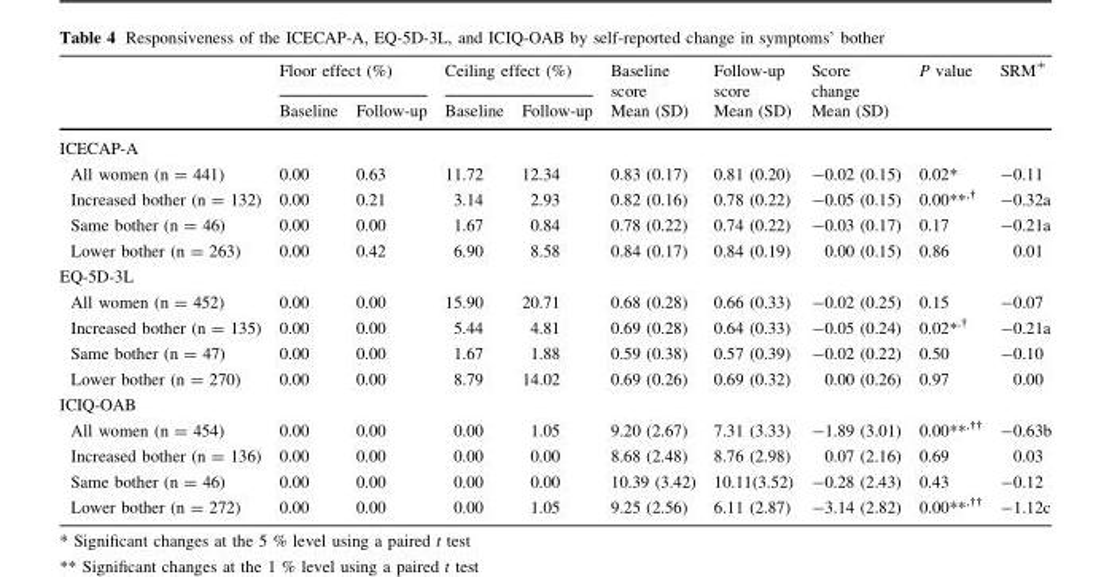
<table><thead><tr><td rowspan="2"></td><td colspan="2">Floor effect (%)</td><td colspan="2">Ceiling effect (%)</td><td rowspan="2">Baseline score Mean (SD)</td><td rowspan="2">Follow-up score Mean (SD)</td><td rowspan="2">Score change Mean (SD)</td><td rowspan="2">P value</td><td rowspan="2">SRM<sup>ǂ</sup></td></tr><tr><td>Baseline</td><td>Follow-up</td><td>Baseline</td><td>Follow-up</td></tr></thead><tbody><tr><td colspan="10">ICECAP-A</td></tr><tr><td>All women (n = 441)</td><td>0.00</td><td>0.63</td><td>11.72</td><td>12.34</td><td>0.83 (0.17)</td><td>0.81 (0.20)</td><td>-0.02 (0.15)</td><td>0.02*</td><td>-0.11</td></tr><tr><td>Increased bother (n = 132)</td><td>0.00</td><td>0.21</td><td>3.14</td><td>2.93</td><td>0.82 (0.16)</td><td>0.78 (0.22)</td><td>-0.05 (0.15)</td><td>0.00**<sup>,†</sup></td><td>-0.32a</td></tr><tr><td>Same bother (n = 46)</td><td>0.00</td><td>0.00</td><td>1.67</td><td>0.84</td><td>0.78 (0.22)</td><td>0.74 (0.22)</td><td>-0.03 (0.17)</td><td>0.17</td><td>-0.21a</td></tr><tr><td>Lower bother (n = 263)</td><td>0.00</td><td>0.42</td><td>6.90</td><td>8.58</td><td>0.84 (0.17)</td><td>0.84 (0.19)</td><td>0.00 (0.15)</td><td>0.86</td><td>0.01</td></tr><tr><td colspan="10">EQ-5D-3L</td></tr><tr><td>All women (n = 452)</td><td>0.00</td><td>0.00</td><td>15.90</td><td>20.71</td><td>0.68 (0.28)</td><td>0.66 (0.33)</td><td>-0.02 (0.25)</td><td>0.15</td><td>-0.07</td></tr><tr><td>Increased bother (n = 135)</td><td>0.00</td><td>0.00</td><td>5.44</td><td>4.81</td><td>0.69 (0.28)</td><td>0.64 (0.33)</td><td>-0.05 (0.24)</td><td>0.02*<sup>,†</sup></td><td>-0.21a</td></tr><tr><td>Same bother (n = 47)</td><td>0.00</td><td>0.00</td><td>1.67</td><td>1.88</td><td>0.59 (0.38)</td><td>0.57 (0.39)</td><td>-0.02 (0.22)</td><td>0.50</td><td>-0.10</td></tr><tr><td>Lower bother (n = 270)</td><td>0.00</td><td>0.00</td><td>8.79</td><td>14.02</td><td>0.69 (0.26)</td><td>0.69 (0.32)</td><td>0.00 (0.26)</td><td>0.97</td><td>0.00</td></tr><tr><td colspan="10">ICIQ-OAB</td></tr><tr><td>All women (n = 454)</td><td>0.00</td><td>0.00</td><td>0.00</td><td>1.05</td><td>9.20 (2.67)</td><td>7.31 (3.33)</td><td>-1.89 (3.01)</td><td>0.00**<sup>,††</sup></td><td>-0.63b</td></tr><tr><td>Increased bother (n = 136)</td><td>0.00</td><td>0.00</td><td>0.00</td><td>0.00</td><td>8.68 (2.48)</td><td>8.76 (2.98)</td><td>0.07 (2.16)</td><td>0.69</td><td>0.03</td></tr><tr><td>Same bother (n = 46)</td><td>0.00</td><td>0.00</td><td>0.00</td><td>0.00</td><td>10.39 (3.42)</td><td>10.11(3.52)</td><td>-0.28 (2.43)</td><td>0.43</td><td>-0.12</td></tr><tr><td>Lower bother (n = 272)</td><td>0.00</td><td>0.00</td><td>0.00</td><td>1.05</td><td>9.25 (2.56)</td><td>6.11 (2.87)</td><td>-3.14 (2.82)</td><td>0.00**<sup>,††</sup></td><td>-1.12c</td></tr></tbody></table>